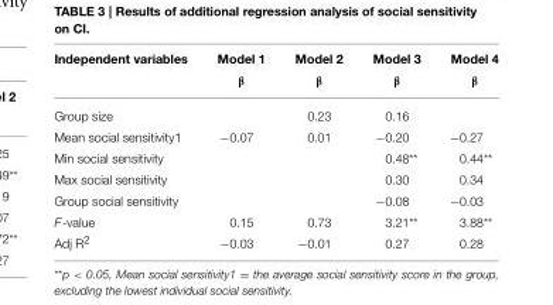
<table><thead><tr><td>Independent variables</td><td>Model 1 β</td><td>Model 2 β</td><td>Model 3 β</td><td>Model 4 β</td></tr></thead><tbody><tr><td>Group size</td><td></td><td>0.23</td><td>0.16</td><td></td></tr><tr><td>Mean social sensitivity1</td><td>−0.07</td><td>0.01</td><td>−0.20</td><td>−0.27</td></tr><tr><td>Min social sensitivity</td><td></td><td></td><td>0.48**</td><td>0.44**</td></tr><tr><td>Max social sensitivity</td><td></td><td></td><td>0.30</td><td>0.34</td></tr><tr><td>Group social sensitivity</td><td></td><td></td><td>−0.08</td><td>−0.03</td></tr><tr><td>F-value</td><td>0.15</td><td>0.73</td><td>3.21**</td><td>3.88**</td></tr><tr><td>Adj R<sup>2</sup></td><td>−0.03</td><td>−0.01</td><td>0.27</td><td>0.28</td></tr></tbody></table>